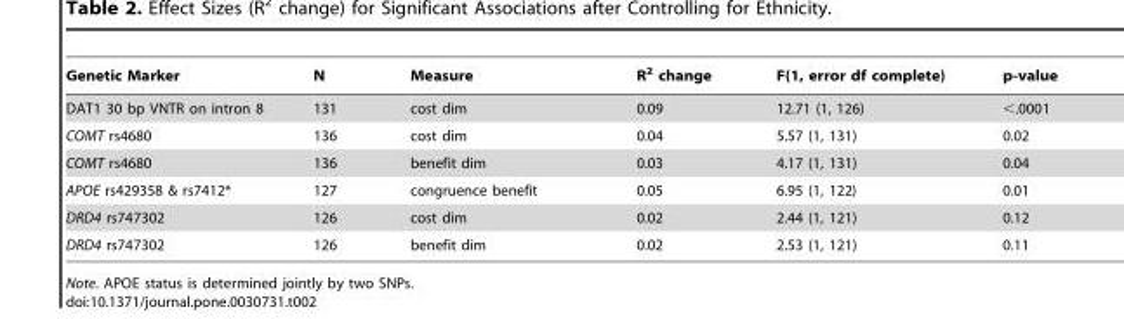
<table><thead><tr><td>Genetic Marker</td><td>N</td><td>Measure</td><td>R<sup>2</sup> change</td><td>F(1, error df complete)</td><td>p-value</td></tr></thead><tbody><tr><td>DAT1 30 bp VNTR on intron 8</td><td>131</td><td>cost dim</td><td>0.09</td><td>12.71 (1, 126)</td><td>&lt;.0001</td></tr><tr><td>COMT rs4680</td><td>136</td><td>cost dim</td><td>0.04</td><td>5.57 (1, 131)</td><td>0.02</td></tr><tr><td>COMT rs4680</td><td>136</td><td>benefit dim</td><td>0.03</td><td>4.17 (1, 131)</td><td>0.04</td></tr><tr><td>APOE rs429358 &amp; rs7412*</td><td>127</td><td>congruence benefit</td><td>0.05</td><td>6.95 (1, 122)</td><td>0.01</td></tr><tr><td>DRD4 rs747302</td><td>126</td><td>cost dim</td><td>0.02</td><td>2.44 (1, 121)</td><td>0.12</td></tr><tr><td>DRD4 rs747302</td><td>126</td><td>benefit dim</td><td>0.02</td><td>2.53 (1, 121)</td><td>0.11</td></tr></tbody></table>